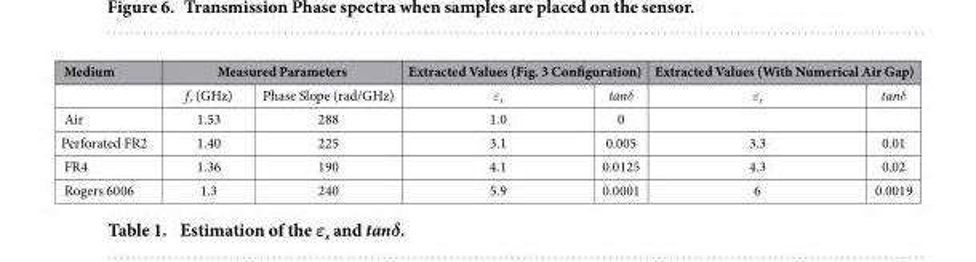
<table><thead><tr><td rowspan="2">Medium</td><td colspan="2">Measured Parameters</td><td colspan="2">Extracted Values (Fig. 3 Configuration)</td><td colspan="2">Extracted Values (With Numerical Air Gap)</td></tr><tr><td>f<sub>r</sub> (GHz)</td><td>Phase Slope (rad/GHz)</td><td>ε<sub>s</sub></td><td>tanδ</td><td>ε<sub>s</sub></td><td>tanδ</td></tr></thead><tbody><tr><td>Air</td><td>1.53</td><td>288</td><td>1.0</td><td>0</td><td></td><td></td></tr><tr><td>Perforated FR2</td><td>1.40</td><td>225</td><td>3.1</td><td>0.005</td><td>3.3</td><td>0.01</td></tr><tr><td>FR4</td><td>1.36</td><td>190</td><td>4.1</td><td>0.0125</td><td>4.3</td><td>0.02</td></tr><tr><td>Rogers 6006</td><td>1.3</td><td>240</td><td>5.9</td><td>0.0001</td><td>6</td><td>0.0019</td></tr></tbody></table>